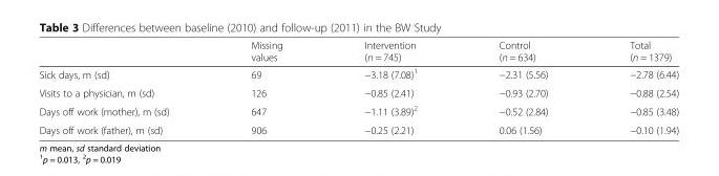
<table><thead><tr><td></td><td>Missing values</td><td>Intervention (n = 745)</td><td>Control (n = 634)</td><td>Total (n = 1379)</td></tr></thead><tbody><tr><td>Sick days, m (sd)</td><td>69</td><td>−3.18 (7.08)<sup>1</sup></td><td>−2.31 (5.56)</td><td>−2.78 (6.44)</td></tr><tr><td>Visits to a physician, m (sd)</td><td>126</td><td>−0.85 (2.41)</td><td>−0.93 (2.70)</td><td>−0.88 (2.54)</td></tr><tr><td>Days off work (mother), m (sd)</td><td>647</td><td>−1.11 (3.89)<sup>2</sup></td><td>−0.52 (2.84)</td><td>−0.85 (3.48)</td></tr><tr><td>Days off work (father), m (sd)</td><td>906</td><td>−0.25 (2.21)</td><td>0.06 (1.56)</td><td>−0.10 (1.94)</td></tr></tbody></table>